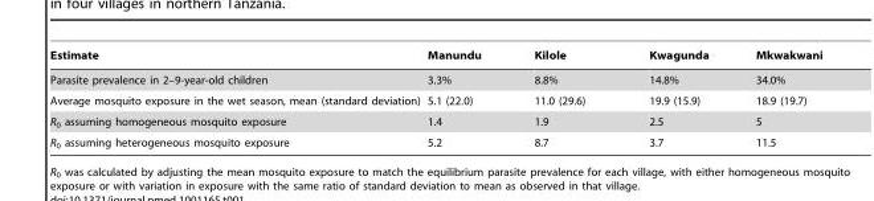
<table><thead><tr><td>Estimate</td><td>Manundu</td><td>Kilole</td><td>Kwagunda</td><td>Mkwakwani</td></tr></thead><tbody><tr><td>Parasite prevalence in 2–9-year-old children</td><td>3.3%</td><td>8.8%</td><td>14.8%</td><td>34.0%</td></tr><tr><td>Average mosquito exposure in the wet season, mean (standard deviation)</td><td>5.1 (22.0)</td><td>11.0 (29.6)</td><td>19.9 (15.9)</td><td>18.9 (19.7)</td></tr><tr><td>R<sub>0</sub> assuming homogeneous mosquito exposure</td><td>1.4</td><td>1.9</td><td>2.5</td><td>5</td></tr><tr><td>R<sub>0</sub> assuming heterogeneous mosquito exposure</td><td>5.2</td><td>8.7</td><td>3.7</td><td>11.5</td></tr></tbody></table>